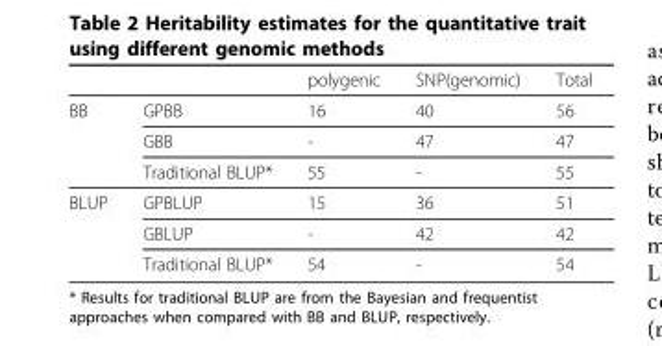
<table><thead><tr><td></td><td></td><td>polygenic</td><td>SNP(genomic)</td><td>Total</td></tr></thead><tbody><tr><td rowspan="3">BB</td><td>GPBB</td><td>16</td><td>40</td><td>56</td></tr><tr><td>GBB</td><td>-</td><td>47</td><td>47</td></tr><tr><td>Traditional BLUP*</td><td>55</td><td>-</td><td>55</td></tr><tr><td rowspan="3">BLUP</td><td>GPBLUP</td><td>15</td><td>36</td><td>51</td></tr><tr><td>GBLUP</td><td>-</td><td>42</td><td>42</td></tr><tr><td>Traditional BLUP*</td><td>54</td><td>-</td><td>54</td></tr></tbody></table>